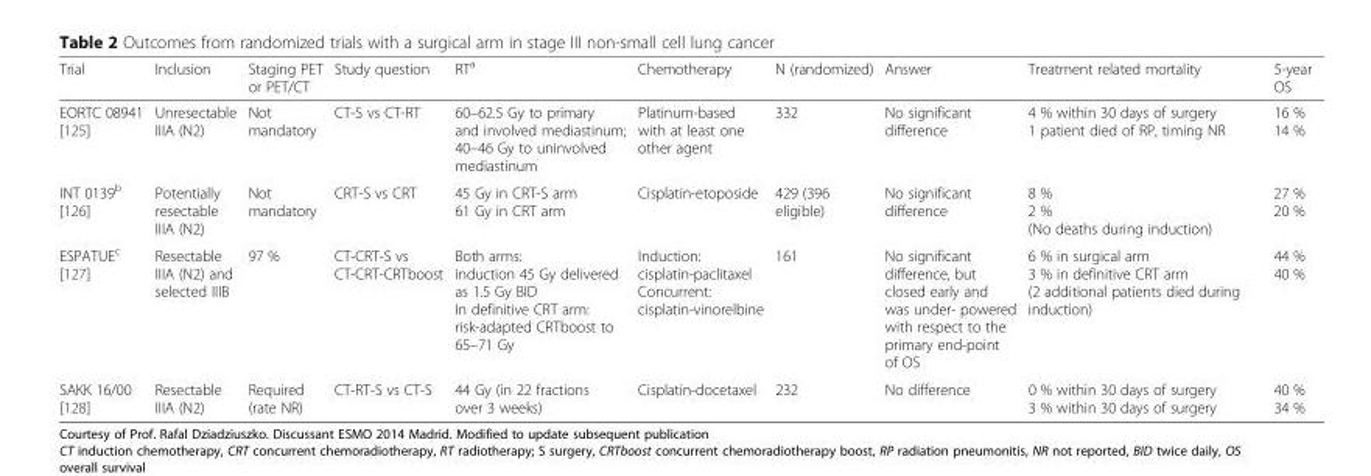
<table><thead><tr><td>Trial</td><td>Inclusion</td><td>Staging PET or PET/CT</td><td>Study question</td><td>RT<sup>a</sup></td><td>Chemotherapy</td><td>N (randomized)</td><td>Answer</td><td>Treatment related mortality</td><td>5-year OS</td></tr></thead><tbody><tr><td>EORTC 08941 [125]</td><td>Unresectable IIIA (N2)</td><td>Not mandatory</td><td>CT-S vs CT-RT</td><td>60–62.5 Gy to primary and involved mediastinum; 40–46 Gy to uninvolved mediastinum</td><td>Platinum-based with at least one other agent</td><td>332</td><td>No significant difference</td><td>4 % within 30 days of surgery 1 patient died of RP, timing NR</td><td>16 % 14 %</td></tr><tr><td>INT 0139<sup>b</sup> [126]</td><td>Potentially resectable IIIA (N2)</td><td>Not mandatory</td><td>CRT-S vs CRT</td><td>45 Gy in CRT-S arm 61 Gy in CRT arm</td><td>Cisplatin-etoposide</td><td>429 (396 eligible)</td><td>No significant difference</td><td>8 % 2 % (No deaths during induction)</td><td>27 % 20 %</td></tr><tr><td>ESPATUE<sup>c</sup> [127]</td><td>Resectable IIIA (N2) and selected IIIB</td><td>97 %</td><td>CT-CRT-S vs CT-CRT-CRTboost</td><td>Both arms: induction 45 Gy delivered as 1.5 Gy BID In definitive CRT arm: risk-adapted CRTboost to 65–71 Gy</td><td>Induction: cisplatin-paclitaxel Concurrent: cisplatin-vinorelbine</td><td>161</td><td>No significant difference, but closed early and was under- powered with respect to the primary end-point of OS</td><td>6 % in surgical arm 3 % in definitive CRT arm (2 additional patients died during induction)</td><td>44 % 40 %</td></tr><tr><td>SAKK 16/00 [128]</td><td>Resectable IIIA (N2)</td><td>Required (rate NR)</td><td>CT-RT-S vs CT-S</td><td>44 Gy (in 22 fractions over 3 weeks)</td><td>Cisplatin-docetaxel</td><td>232</td><td>No difference</td><td>0 % within 30 days of surgery 3 % within 30 days of surgery</td><td>40 % 34 %</td></tr></tbody></table>